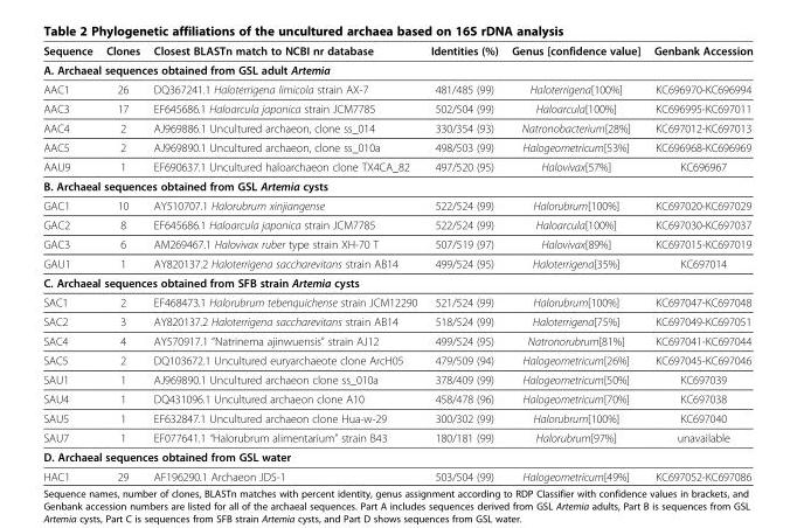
<table><thead><tr><td>Sequence</td><td>Clones</td><td>Closest BLASTn match to NCBI nr database</td><td>Identities (%)</td><td>Genus [confidence value]</td><td>Genbank Accession</td></tr></thead><tbody><tr><td colspan="6">A. Archaeal sequences obtained from GSL adult Artemia</td></tr><tr><td>AAC1</td><td>26</td><td>DQ367241.1 Haloterrigena limicola strain AX-7</td><td>481/485 (99)</td><td>Haloterrigena[100%]</td><td>KC696970-KC696994</td></tr><tr><td>AAC3</td><td>17</td><td>EF645686.1 Haloarcula japonica strain JCM7785</td><td>502/504 (99)</td><td>Haloarcula[100%]</td><td>KC696995-KC697011</td></tr><tr><td>AAC4</td><td>2</td><td>AJ969886.1 Uncultured archaeon, clone ss_014</td><td>330/354 (93)</td><td>Natronobacterium[28%]</td><td>KC697012-KC697013</td></tr><tr><td>AAC5</td><td>2</td><td>AJ969890.1 Uncultured archaeon, clone ss_010a</td><td>498/503 (99)</td><td>Halogeometricum[53%]</td><td>KC696968-KC696969</td></tr><tr><td>AAU9</td><td>1</td><td>EF690637.1 Uncultured haloarchaeon clone TX4CA_82</td><td>497/520 (95)</td><td>Halovivax[57%]</td><td>KC696967</td></tr><tr><td colspan="6">B. Archaeal sequences obtained from GSL Artemia cysts</td></tr><tr><td>GAC1</td><td>10</td><td>AY510707.1 Halorubrum xinjiangense</td><td>522/524 (99)</td><td>Halorubrum[100%]</td><td>KC697020-KC697029</td></tr><tr><td>GAC2</td><td>8</td><td>EF645686.1 Haloarcula japonica strain JCM7785</td><td>522/524 (99)</td><td>Haloarcula[100%]</td><td>KC697030-KC697037</td></tr><tr><td>GAC3</td><td>6</td><td>AM269467.1 Halovivax ruber type strain XH-70 T</td><td>507/519 (97)</td><td>Halovivax[89%]</td><td>KC697015-KC697019</td></tr><tr><td>GAU1</td><td>1</td><td>AY820137.2 Haloterrigena saccharevitans strain AB14</td><td>499/524 (95)</td><td>Haloterrigena[35%]</td><td>KC697014</td></tr><tr><td colspan="6">C. Archaeal sequences obtained from SFB strain Artemia cysts</td></tr><tr><td>SAC1</td><td>2</td><td>EF468473.1 Halorubrum tebenquichense strain JCM12290</td><td>521/524 (99)</td><td>Halorubrum[100%]</td><td>KC697047-KC697048</td></tr><tr><td>SAC2</td><td>3</td><td>AY820137.2 Haloterrigena saccharevitans strain AB14</td><td>518/524 (99)</td><td>Haloterrigena[75%]</td><td>KC697049-KC697051</td></tr><tr><td>SAC4</td><td>4</td><td>AY570917.1 “Natrinema ajinwuensis” strain AJ12</td><td>499/524 (95)</td><td>Natronorubrum[81%]</td><td>KC697041-KC697044</td></tr><tr><td>SAC5</td><td>2</td><td>DQ103672.1 Uncultured euryarchaeote clone ArcH05</td><td>479/509 (94)</td><td>Halogeometricum[26%]</td><td>KC697045-KC697046</td></tr><tr><td>SAU1</td><td>1</td><td>AJ969890.1 Uncultured archaeon clone ss_010a</td><td>378/409 (99)</td><td>Halogeometricum[50%]</td><td>KC697039</td></tr><tr><td>SAU4</td><td>1</td><td>DQ431096.1 Uncultured archaeon clone A10</td><td>458/478 (96)</td><td>Halogeometricum[70%]</td><td>KC697038</td></tr><tr><td>SAU5</td><td>1</td><td>EF632847.1 Uncultured archaeon clone Hua-w-29</td><td>300/302 (99)</td><td>Halorubrum[100%]</td><td>KC697040</td></tr><tr><td>SAU7</td><td>1</td><td>EF077641.1 “Halorubrum alimentarium” strain B43</td><td>180/181 (99)</td><td>Halorubrum[97%]</td><td>unavailable</td></tr><tr><td colspan="6">D. Archaeal sequences obtained from GSL water</td></tr><tr><td>HAC1</td><td>29</td><td>AF196290.1 Archaeon JDS-1</td><td>503/504 (99)</td><td>Halogeometricum[49%]</td><td>KC697052-KC697086</td></tr></tbody></table>